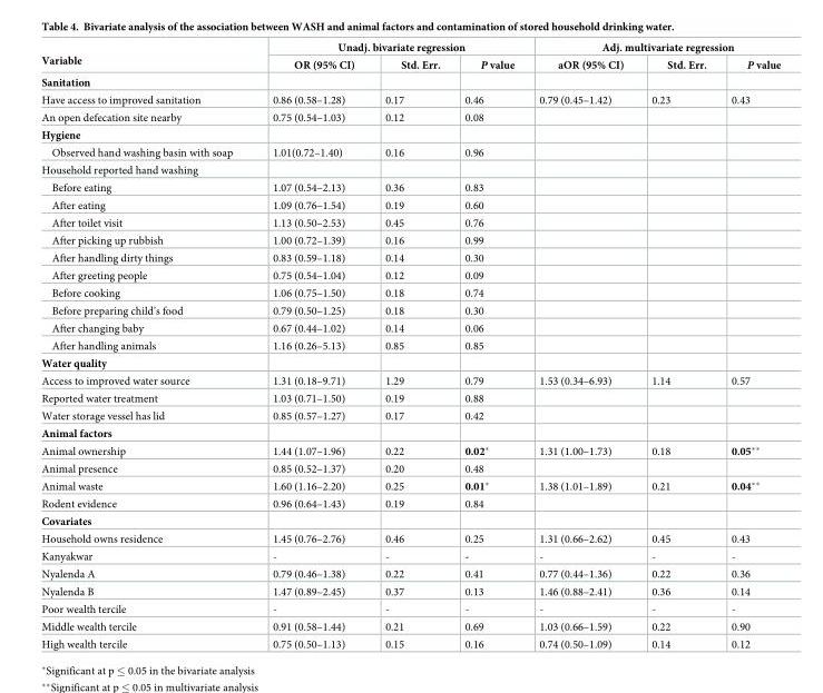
<table><thead><tr><td rowspan="2">Variable</td><td colspan="3">Unadj. bivariate regression</td><td colspan="3">Adj. multivariate regression</td></tr><tr><td>OR (95% CI)</td><td>Std. Err.</td><td>P value</td><td>aOR (95% CI)</td><td>Std. Err.</td><td>P value</td></tr></thead><tbody><tr><td colspan="7">Sanitation</td></tr><tr><td>Have access to improved sanitation</td><td>0.86 (0.58–1.28)</td><td>0.17</td><td>0.46</td><td>0.79 (0.45–1.42)</td><td>0.23</td><td>0.43</td></tr><tr><td>An open defecation site nearby</td><td>0.75 (0.54–1.03)</td><td>0.12</td><td>0.08</td><td></td><td></td><td></td></tr><tr><td colspan="7">Hygiene</td></tr><tr><td>Observed hand washing basin with soap</td><td>1.01(0.72–1.40)</td><td>0.16</td><td>0.96</td><td></td><td></td><td></td></tr><tr><td colspan="7">Household reported hand washing</td></tr><tr><td>Before eating</td><td>1.07 (0.54–2.13)</td><td>0.36</td><td>0.83</td><td></td><td></td><td></td></tr><tr><td>After eating</td><td>1.09 (0.76–1.54)</td><td>0.19</td><td>0.60</td><td></td><td></td><td></td></tr><tr><td>After toilet visit</td><td>1.13 (0.50–2.53)</td><td>0.45</td><td>0.76</td><td></td><td></td><td></td></tr><tr><td>After picking up rubbish</td><td>1.00 (0.72–1.39)</td><td>0.16</td><td>0.99</td><td></td><td></td><td></td></tr><tr><td>After handling dirty things</td><td>0.83 (0.59–1.18)</td><td>0.14</td><td>0.30</td><td></td><td></td><td></td></tr><tr><td>After greeting people</td><td>0.75 (0.54–1.04)</td><td>0.12</td><td>0.09</td><td></td><td></td><td></td></tr><tr><td>Before cooking</td><td>1.06 (0.75–1.50)</td><td>0.18</td><td>0.74</td><td></td><td></td><td></td></tr><tr><td>Before preparing child’s food</td><td>0.79 (0.50–1.25)</td><td>0.18</td><td>0.30</td><td></td><td></td><td></td></tr><tr><td>After changing baby</td><td>0.67 (0.44–1.02)</td><td>0.14</td><td>0.06</td><td></td><td></td><td></td></tr><tr><td>After handling animals</td><td>1.16 (0.26–5.13)</td><td>0.85</td><td>0.85</td><td></td><td></td><td></td></tr><tr><td colspan="7">Water quality</td></tr><tr><td>Access to improved water source</td><td>1.31 (0.18–9.71)</td><td>1.29</td><td>0.79</td><td>1.53 (0.34–6.93)</td><td>1.14</td><td>0.57</td></tr><tr><td>Reported water treatment</td><td>1.03 (0.71–1.50)</td><td>0.19</td><td>0.88</td><td></td><td></td><td></td></tr><tr><td>Water storage vessel has lid</td><td>0.85 (0.57–1.27)</td><td>0.17</td><td>0.42</td><td></td><td></td><td></td></tr><tr><td colspan="7">Animal factors</td></tr><tr><td>Animal ownership</td><td>1.44 (1.07–1.96)</td><td>0.22</td><td>0.02*</td><td>1.31 (1.00–1.73)</td><td>0.18</td><td>0.05**</td></tr><tr><td>Animal presence</td><td>0.85 (0.52–1.37)</td><td>0.20</td><td>0.48</td><td></td><td></td><td></td></tr><tr><td>Animal waste</td><td>1.60 (1.16–2.20)</td><td>0.25</td><td>0.01*</td><td>1.38 (1.01–1.89)</td><td>0.21</td><td>0.04**</td></tr><tr><td>Rodent evidence</td><td>0.96 (0.64–1.43)</td><td>0.19</td><td>0.84</td><td></td><td></td><td></td></tr><tr><td colspan="7">Covariates</td></tr><tr><td>Household owns residence</td><td>1.45 (0.76–2.76)</td><td>0.46</td><td>0.25</td><td>1.31 (0.66–2.62)</td><td>0.45</td><td>0.43</td></tr><tr><td>Kanyakwar</td><td>-</td><td>-</td><td>-</td><td>-</td><td>-</td><td>-</td></tr><tr><td>Nyalenda A</td><td>0.79 (0.46–1.38)</td><td>0.22</td><td>0.41</td><td>0.77 (0.44–1.36)</td><td>0.22</td><td>0.36</td></tr><tr><td>Nyalenda B</td><td>1.47 (0.89–2.45)</td><td>0.37</td><td>0.13</td><td>1.46 (0.88–2.41)</td><td>0.36</td><td>0.14</td></tr><tr><td>Poor wealth tercile</td><td>-</td><td>-</td><td>-</td><td>-</td><td>-</td><td>-</td></tr><tr><td>Middle wealth tercile</td><td>0.91 (0.58–1.44)</td><td>0.21</td><td>0.69</td><td>1.03 (0.66–1.59)</td><td>0.22</td><td>0.90</td></tr><tr><td>High wealth tercile</td><td>0.75 (0.50–1.13)</td><td>0.15</td><td>0.16</td><td>0.74 (0.50–1.09)</td><td>0.14</td><td>0.12</td></tr></tbody></table>